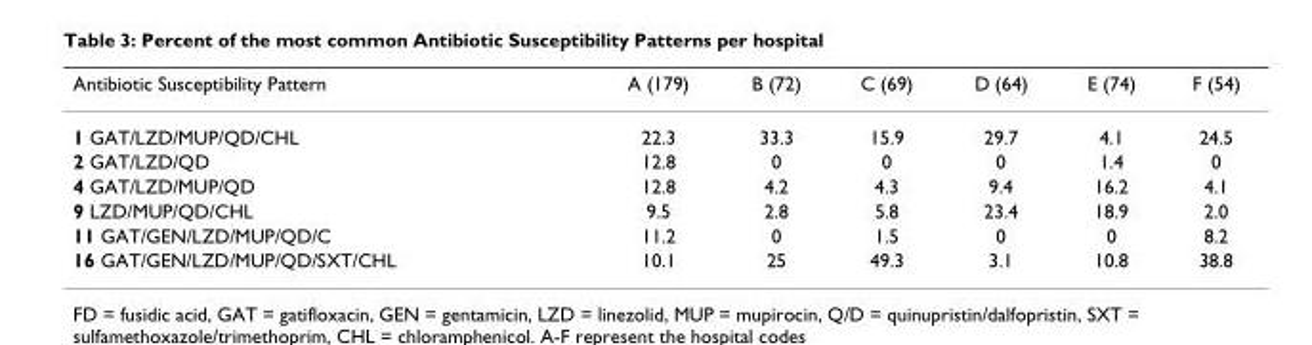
<table><thead><tr><td>Antibiotic Susceptibility Pattern</td><td>A (179)</td><td>B (72)</td><td>C (69)</td><td>D (64)</td><td>E (74)</td><td>F (54)</td></tr></thead><tbody><tr><td>1 GAT/LZD/MUP/QD/CHL</td><td>22.3</td><td>33.3</td><td>15.9</td><td>29.7</td><td>4.1</td><td>24.5</td></tr><tr><td>2 GAT/LZD/QD</td><td>12.8</td><td>0</td><td>0</td><td>0</td><td>1.4</td><td>0</td></tr><tr><td>4 GAT/LZD/MUP/QD</td><td>12.8</td><td>4.2</td><td>4.3</td><td>9.4</td><td>16.2</td><td>4.1</td></tr><tr><td>9 LZD/MUP/QD/CHL</td><td>9.5</td><td>2.8</td><td>5.8</td><td>23.4</td><td>18.9</td><td>2.0</td></tr><tr><td>11 GAT/GEN/LZD/MUP/QD/C</td><td>11.2</td><td>0</td><td>1.5</td><td>0</td><td>0</td><td>8.2</td></tr><tr><td>16 GAT/GEN/LZD/MUP/QD/SXT/CHL</td><td>10.1</td><td>25</td><td>49.3</td><td>3.1</td><td>10.8</td><td>38.8</td></tr></tbody></table>